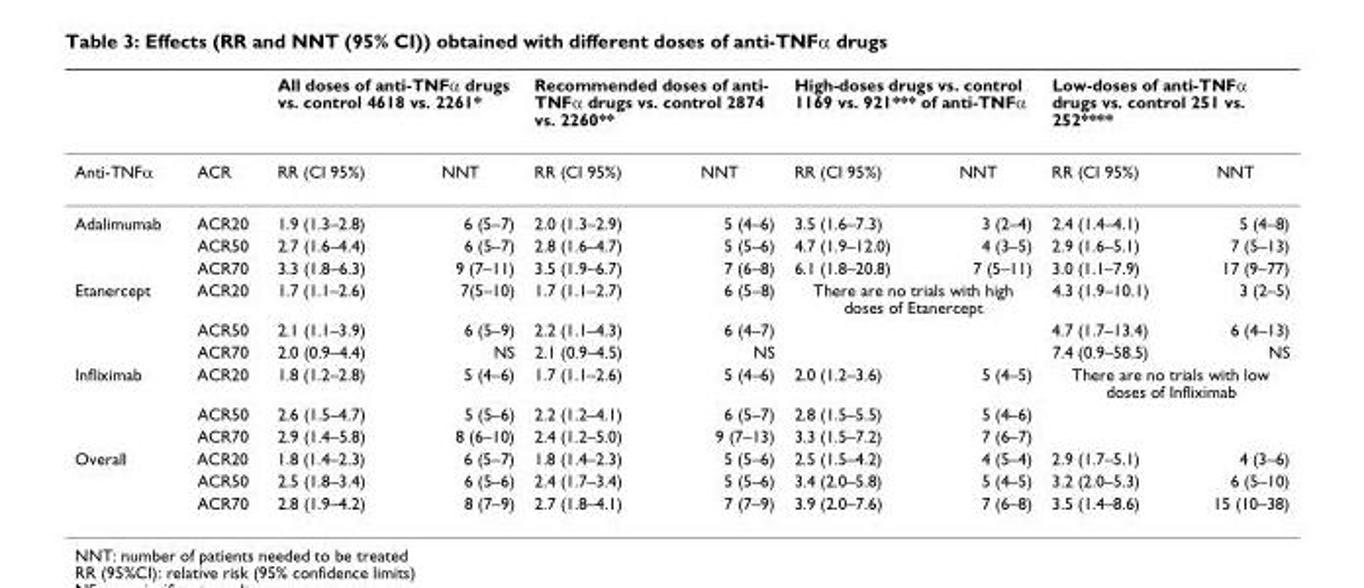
<table><thead><tr><td rowspan="2">Anti-TNFα</td><td rowspan="2">ACR</td><td colspan="2">All doses of anti-TNFα drugs vs. control 4618 vs. 2261*</td><td colspan="2">Recommended doses of anti- TNFα drugs vs. control 2874 vs. 2260**</td><td colspan="2">High-doses drugs vs. control 1169 vs. 921*** of anti-TNFα</td><td colspan="2">Low-doses of anti-TNFα drugs vs. control 251 vs. 252****</td></tr><tr><td>RR (CI 95%)</td><td>NNT</td><td>RR (CI 95%)</td><td>NNT</td><td>RR (CI 95%)</td><td>NNT</td><td>RR (CI 95%)</td><td>NNT</td></tr></thead><tbody><tr><td rowspan="3">Adalimumab</td><td>ACR20</td><td>1.9 (1.3–2.8)</td><td>6 (5–7)</td><td>2.0 (1.3–2.9)</td><td>5 (4–6)</td><td>3.5 (1.6–7.3)</td><td>3 (2–4)</td><td>2.4 (1.4–4.1)</td><td>5 (4–8)</td></tr><tr><td>ACR50</td><td>2.7 (1.6–4.4)</td><td>6 (5–7)</td><td>2.8 (1.6–4.7)</td><td>5 (5–6)</td><td>4.7 (1.9–12.0)</td><td>4 (3–5)</td><td>2.9 (1.6–5.1)</td><td>7 (5–13)</td></tr><tr><td>ACR70</td><td>3.3 (1.8–6.3)</td><td>9 (7–11)</td><td>3.5 (1.9–6.7)</td><td>7 (6–8)</td><td>6.1 (1.8–20.8)</td><td>7 (5–11)</td><td>3.0 (1.1–7.9)</td><td>17 (9–77)</td></tr><tr><td rowspan="3">Etanercept</td><td>ACR20</td><td>1.7 (1.1–2.6)</td><td>7(5–10)</td><td>1.7 (1.1–2.7)</td><td>6 (5–8)</td><td colspan="2">There are no trials with high doses of Etanercept</td><td>4.3 (1.9–10.1)</td><td>3 (2–5)</td></tr><tr><td>ACR50</td><td>2.1 (1.1–3.9)</td><td>6 (5–9)</td><td>2.2 (1.1–4.3)</td><td>6 (4–7)</td><td></td><td></td><td>4.7 (1.7–13.4)</td><td>6 (4–13)</td></tr><tr><td>ACR70</td><td>2.0 (0.9–4.4)</td><td>NS</td><td>2.1 (0.9–4.5)</td><td>NS</td><td></td><td></td><td>7.4 (0.9–58.5)</td><td>NS</td></tr><tr><td rowspan="3">Infliximab</td><td>ACR20</td><td>1.8 (1.2–2.8)</td><td>5 (4–6)</td><td>1.7 (1.1–2.6)</td><td>5 (4–6)</td><td>2.0 (1.2–3.6)</td><td>5 (4–5)</td><td colspan="2">There are no trials with low doses of Infliximab</td></tr><tr><td>ACR50</td><td>2.6 (1.5–4.7)</td><td>5 (5–6)</td><td>2.2 (1.2–4.1)</td><td>6 (5–7)</td><td>2.8 (1.5–5.5)</td><td>5 (4–6)</td><td></td><td></td></tr><tr><td>ACR70</td><td>2.9 (1.4–5.8)</td><td>8 (6–10)</td><td>2.4 (1.2–5.0)</td><td>9 (7–13)</td><td>3.3 (1.5–7.2)</td><td>7 (6–7)</td><td></td><td></td></tr><tr><td rowspan="3">Overall</td><td>ACR20</td><td>1.8 (1.4–2.3)</td><td>6 (5–7)</td><td>1.8 (1.4–2.3)</td><td>5 (5–6)</td><td>2.5 (1.5–4.2)</td><td>4 (5–4)</td><td>2.9 (1.7–5.1)</td><td>4 (3–6)</td></tr><tr><td>ACR50</td><td>2.5 (1.8–3.4)</td><td>6 (5–6)</td><td>2.4 (1.7–3.4)</td><td>5 (5–6)</td><td>3.4 (2.0–5.8)</td><td>5 (4–5)</td><td>3.2 (2.0–5.3)</td><td>6 (5–10)</td></tr><tr><td>ACR70</td><td>2.8 (1.9–4.2)</td><td>8 (7–9)</td><td>2.7 (1.8–4.1)</td><td>7 (7–9)</td><td>3.9 (2.0–7.6)</td><td>7 (6–8)</td><td>3.5 (1.4–8.6)</td><td>15 (10–38)</td></tr></tbody></table>